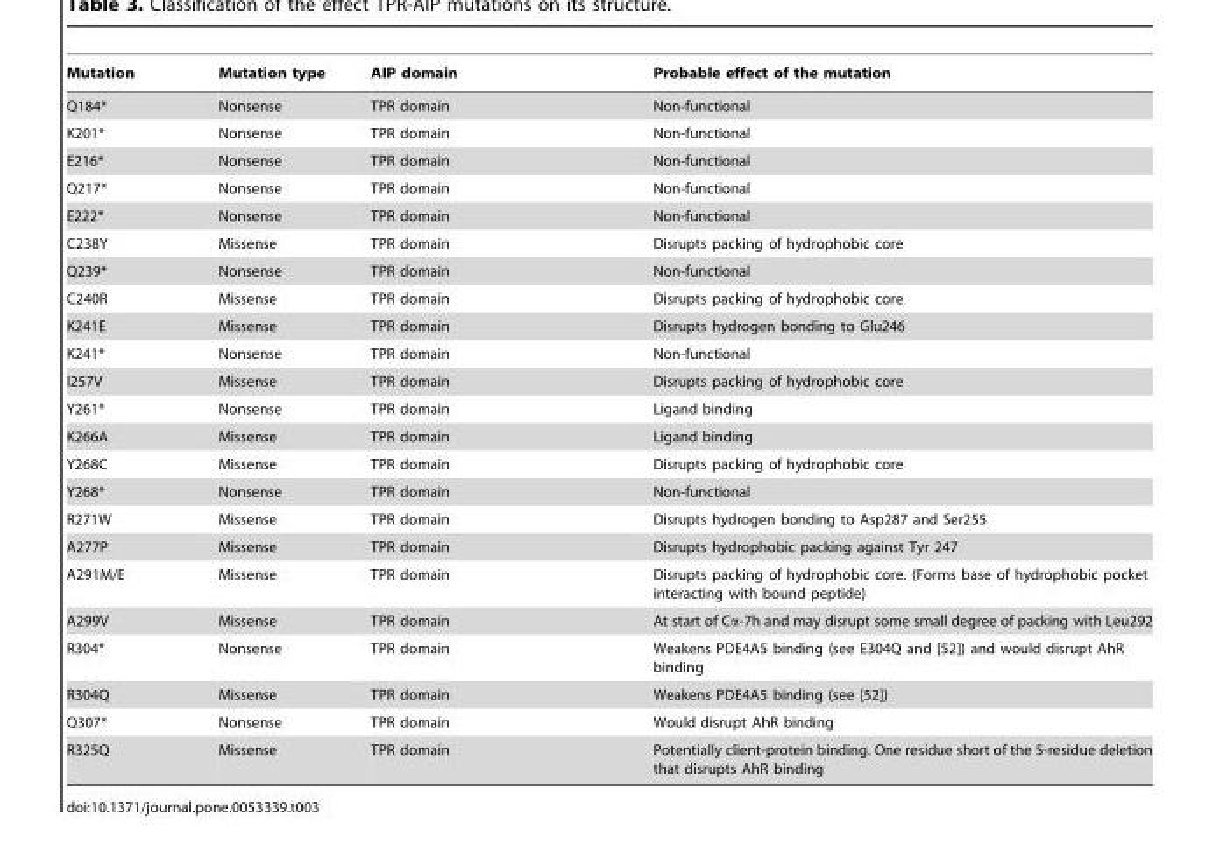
<table><thead><tr><td>Mutation</td><td>Mutation type</td><td>AIP domain</td><td>Probable effect of the mutation</td></tr></thead><tbody><tr><td>Q184*</td><td>Nonsense</td><td>TPR domain</td><td>Non-functional</td></tr><tr><td>K201*</td><td>Nonsense</td><td>TPR domain</td><td>Non-functional</td></tr><tr><td>E216*</td><td>Nonsense</td><td>TPR domain</td><td>Non-functional</td></tr><tr><td>Q217*</td><td>Nonsense</td><td>TPR domain</td><td>Non-functional</td></tr><tr><td>E222*</td><td>Nonsense</td><td>TPR domain</td><td>Non-functional</td></tr><tr><td>C238Y</td><td>Missense</td><td>TPR domain</td><td>Disrupts packing of hydrophobic core</td></tr><tr><td>Q239*</td><td>Nonsense</td><td>TPR domain</td><td>Non-functional</td></tr><tr><td>C240R</td><td>Missense</td><td>TPR domain</td><td>Disrupts packing of hydrophobic core</td></tr><tr><td>K241E</td><td>Missense</td><td>TPR domain</td><td>Disrupts hydrogen bonding to Glu246</td></tr><tr><td>K241*</td><td>Nonsense</td><td>TPR domain</td><td>Non-functional</td></tr><tr><td>I257V</td><td>Missense</td><td>TPR domain</td><td>Disrupts packing of hydrophobic core</td></tr><tr><td>Y261*</td><td>Nonsense</td><td>TPR domain</td><td>Ligand binding</td></tr><tr><td>K266A</td><td>Missense</td><td>TPR domain</td><td>Ligand binding</td></tr><tr><td>Y268C</td><td>Missense</td><td>TPR domain</td><td>Disrupts packing of hydrophobic core</td></tr><tr><td>Y268*</td><td>Nonsense</td><td>TPR domain</td><td>Non-functional</td></tr><tr><td>R271W</td><td>Missense</td><td>TPR domain</td><td>Disrupts hydrogen bonding to Asp287 and Ser255</td></tr><tr><td>A277P</td><td>Missense</td><td>TPR domain</td><td>Disrupts hydrophobic packing against Tyr 247</td></tr><tr><td>A291M/E</td><td>Missense</td><td>TPR domain</td><td>Disrupts packing of hydrophobic core. (Forms base of hydrophobic pocket interacting with bound peptide)</td></tr><tr><td>A299V</td><td>Missense</td><td>TPR domain</td><td>At start of Cα-7h and may disrupt some small degree of packing with Leu292</td></tr><tr><td>R304*</td><td>Nonsense</td><td>TPR domain</td><td>Weakens PDE4A5 binding (see E304Q and [52]) and would disrupt AhR binding</td></tr><tr><td>R304Q</td><td>Missense</td><td>TPR domain</td><td>Weakens PDE4A5 binding (see [52])</td></tr><tr><td>Q307*</td><td>Nonsense</td><td>TPR domain</td><td>Would disrupt AhR binding</td></tr><tr><td>R325Q</td><td>Missense</td><td>TPR domain</td><td>Potentially client-protein binding. One residue short of the 5-residue deletion that disrupts AhR binding</td></tr></tbody></table>